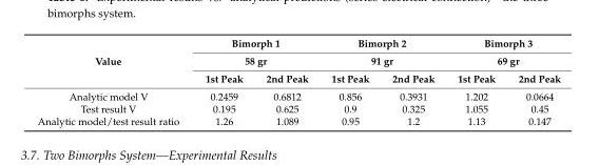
<table><thead><tr><td rowspan="3">Value</td><td rowspan="2" colspan="2">Bimorph 1 58 gr</td><td rowspan="2" colspan="2">Bimorph 2 91 gr</td><td rowspan="2" colspan="2">Bimorph 3 69 gr</td></tr><tr></tr><tr><td>1st Peak</td><td>2nd Peak</td><td>1st Peak</td><td>2nd Peak</td><td>1st Peak</td><td>2nd Peak</td></tr></thead><tbody><tr><td>Analytic model V</td><td>0.2459</td><td>0.6812</td><td>0.856</td><td>0.3931</td><td>1.202</td><td>0.0664</td></tr><tr><td>Test result V</td><td>0.195</td><td>0.625</td><td>0.9</td><td>0.325</td><td>1.055</td><td>0.45</td></tr><tr><td>Analytic model/test result ratio</td><td>1.26</td><td>1.089</td><td>0.95</td><td>1.2</td><td>1.13</td><td>0.147</td></tr></tbody></table>